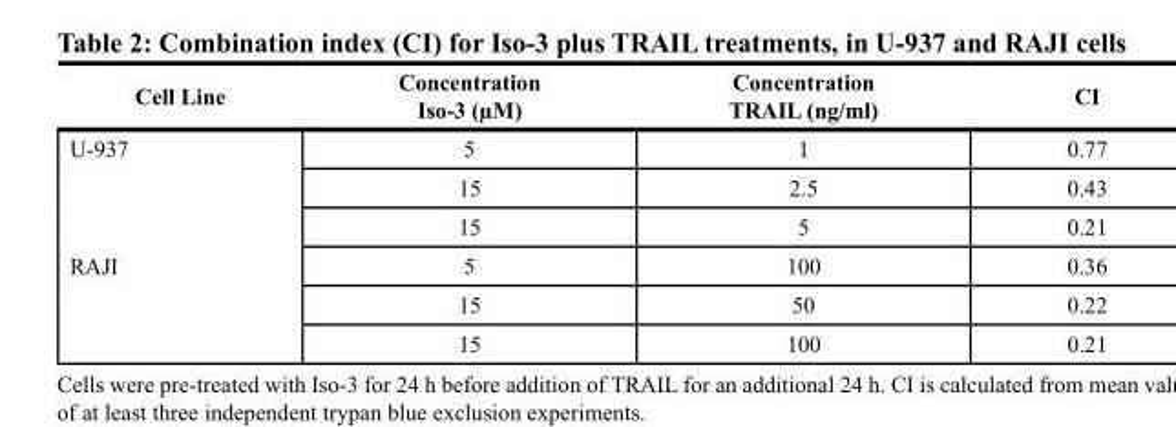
<table><thead><tr><td>Cell Line</td><td>Concentration Iso-3 (µM)</td><td>Concentration TRAIL (ng/ml)</td><td>cI</td></tr></thead><tbody><tr><td rowspan="3">U-937</td><td>5</td><td>1</td><td>0.77</td></tr><tr><td>15</td><td>2.5</td><td>0.43</td></tr><tr><td>15</td><td>5</td><td>0.21</td></tr><tr><td rowspan="3">RAJI</td><td>5</td><td>100</td><td>0.36</td></tr><tr><td>15</td><td>50</td><td>0.22</td></tr><tr><td>15</td><td>100</td><td>0.21</td></tr></tbody></table>